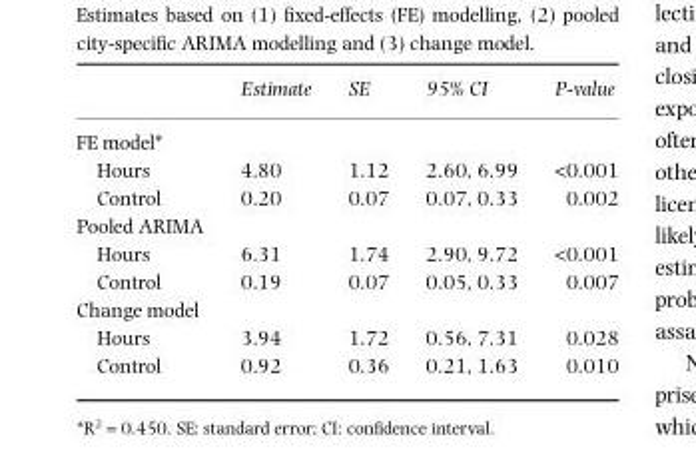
<table><thead><tr><td></td><td>Estimate</td><td>SE</td><td>95% CI</td><td>P-value</td></tr></thead><tbody><tr><td colspan="5">FE model*</td></tr><tr><td>Hours</td><td>4.80</td><td>1.12</td><td>2.60, 6.99</td><td>&lt;0.001</td></tr><tr><td>Control</td><td>0.20</td><td>0.07</td><td>0.07, 0.33</td><td>0.002</td></tr><tr><td colspan="5">Pooled ARIMA</td></tr><tr><td>Hours</td><td>6.31</td><td>1.74</td><td>2.90, 9.72</td><td>&lt;0.001</td></tr><tr><td>Control</td><td>0.19</td><td>0.07</td><td>0.05, 0.33</td><td>0.007</td></tr><tr><td colspan="5">Change model</td></tr><tr><td>Hours</td><td>3.94</td><td>1.72</td><td>0.56, 7.31</td><td>0.028</td></tr><tr><td>Control</td><td>0.92</td><td>0.36</td><td>0.21, 1.63</td><td>0.010</td></tr></tbody></table>